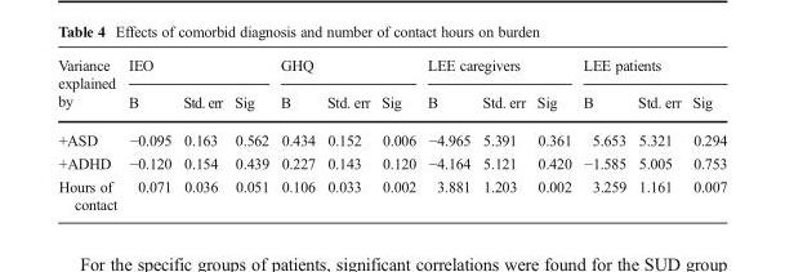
<table><thead><tr><td rowspan="2">Variance explained by</td><td colspan="3">IEO</td><td colspan="3">GHQ</td><td colspan="3">LEE caregivers</td><td colspan="3">LEE patients</td></tr><tr><td>B</td><td>Std. err</td><td>Sig</td><td>B</td><td>Std. err</td><td>Sig</td><td>B</td><td>Std. err</td><td>Sig</td><td>B</td><td>Std. err</td><td>Sig</td></tr></thead><tbody><tr><td>+ASD</td><td>−0.095</td><td>0.163</td><td>0.562</td><td>0.434</td><td>0.152</td><td>0.006</td><td>−4.965</td><td>5.391</td><td>0.361</td><td>5.653</td><td>5.321</td><td>0.294</td></tr><tr><td>+ADHD</td><td>−0.120</td><td>0.154</td><td>0.439</td><td>0.227</td><td>0.143</td><td>0.120</td><td>−4.164</td><td>5.121</td><td>0.420</td><td>−1.585</td><td>5.005</td><td>0.753</td></tr><tr><td>Hours of contact</td><td>0.071</td><td>0.036</td><td>0.051</td><td>0.106</td><td>0.033</td><td>0.002</td><td>3.881</td><td>1.203</td><td>0.002</td><td>3.259</td><td>1.161</td><td>0.007</td></tr></tbody></table>